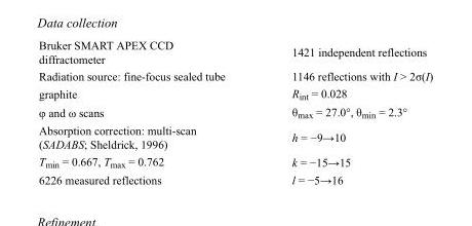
<table><tbody><tr><td>Bruker SMART APEX CCD diffractometer</td><td>1421 independent reflections</td></tr><tr><td>Radiation source: fine-focus sealed tube</td><td>1146 reflections with I &gt; 2σ(I)</td></tr><tr><td>graphite</td><td>R<sub>int</sub> = 0.028</td></tr><tr><td>φ and ω scans</td><td>θ<sub>max</sub> = 27.0°, θ<sub>min</sub> = 2.3°</td></tr><tr><td>Absorption correction: multi-scan (SADABS; Sheldrick, 1996)</td><td>h = −9→10</td></tr><tr><td>T<sub>min</sub> = 0.667, T<sub>max</sub> = 0.762</td><td>k = −15→15</td></tr><tr><td>6226 measured reflections</td><td>l = −5→16</td></tr></tbody></table>